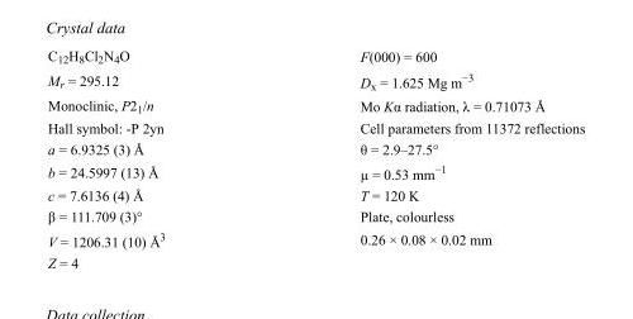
<table><tbody><tr><td>C<sub>12</sub>H<sub>8</sub>Cl<sub>2</sub>N<sub>4</sub>O</td><td>F(000) = 600</td></tr><tr><td>M<sub>r</sub> = 295.12</td><td>D<sub>x</sub> = 1.625 Mg m<sup>−3</sup></td></tr><tr><td>Monoclinic, P2<sub>1</sub>/n</td><td>Mo Kα radiation, λ = 0.71073 Å</td></tr><tr><td>Hall symbol: -P 2yn</td><td>Cell parameters from 11372 reflections</td></tr><tr><td>a = 6.9325 (3) Å</td><td>θ = 2.9–27.5°</td></tr><tr><td>b = 24.5997 (13) Å</td><td>µ = 0.53 mm<sup>−1</sup></td></tr><tr><td>c = 7.6136 (4) Å</td><td>T = 120 K</td></tr><tr><td>β = 111.709 (3)°</td><td>Plate, colourless</td></tr><tr><td>V = 1206.31 (10) Å<sup>3</sup></td><td>0.26 × 0.08 × 0.02 mm</td></tr><tr><td>Z = 4</td><td></td></tr></tbody></table>